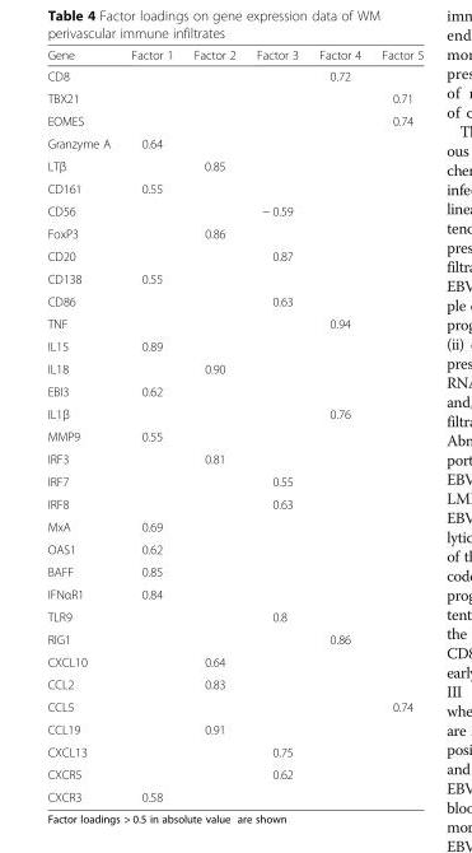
<table><thead><tr><td>Gene</td><td>Factor 1</td><td>Factor 2</td><td>Factor 3</td><td>Factor 4</td><td>Factor 5</td></tr></thead><tbody><tr><td>CD8</td><td></td><td></td><td></td><td>0.72</td><td></td></tr><tr><td>TBX21</td><td></td><td></td><td></td><td></td><td>0.71</td></tr><tr><td>EOMES</td><td></td><td></td><td></td><td></td><td>0.74</td></tr><tr><td>Granzyme A</td><td>0.64</td><td></td><td></td><td></td><td></td></tr><tr><td>LTβ</td><td></td><td>0.85</td><td></td><td></td><td></td></tr><tr><td>CD161</td><td>0.55</td><td></td><td></td><td></td><td></td></tr><tr><td>CD56</td><td></td><td></td><td>− 0.59</td><td></td><td></td></tr><tr><td>FoxP3</td><td></td><td>0.86</td><td></td><td></td><td></td></tr><tr><td>CD20</td><td></td><td></td><td>0.87</td><td></td><td></td></tr><tr><td>CD138</td><td>0.55</td><td></td><td></td><td></td><td></td></tr><tr><td>CD86</td><td></td><td></td><td>0.63</td><td></td><td></td></tr><tr><td>TNF</td><td></td><td></td><td></td><td>0.94</td><td></td></tr><tr><td>IL15</td><td>0.89</td><td></td><td></td><td></td><td></td></tr><tr><td>IL18</td><td></td><td>0.90</td><td></td><td></td><td></td></tr><tr><td>EBI3</td><td>0.62</td><td></td><td></td><td></td><td></td></tr><tr><td>IL1β</td><td></td><td></td><td></td><td>0.76</td><td></td></tr><tr><td>MMP9</td><td>0.55</td><td></td><td></td><td></td><td></td></tr><tr><td>IRF3</td><td></td><td>0.81</td><td></td><td></td><td></td></tr><tr><td>IRF7</td><td></td><td></td><td>0.55</td><td></td><td></td></tr><tr><td>IRF8</td><td></td><td></td><td>0.63</td><td></td><td></td></tr><tr><td>MxA</td><td>0.69</td><td></td><td></td><td></td><td></td></tr><tr><td>OAS1</td><td>0.62</td><td></td><td></td><td></td><td></td></tr><tr><td>BAFF</td><td>0.85</td><td></td><td></td><td></td><td></td></tr><tr><td>IFNαR1</td><td>0.84</td><td></td><td></td><td></td><td></td></tr><tr><td>TLR9</td><td></td><td></td><td>0.8</td><td></td><td></td></tr><tr><td>RIG1</td><td></td><td></td><td></td><td>0.86</td><td></td></tr><tr><td>CXCL10</td><td></td><td>0.64</td><td></td><td></td><td></td></tr><tr><td>CCL2</td><td></td><td>0.83</td><td></td><td></td><td></td></tr><tr><td>CCL5</td><td></td><td></td><td></td><td></td><td>0.74</td></tr><tr><td>CCL19</td><td></td><td>0.91</td><td></td><td></td><td></td></tr><tr><td>CXCL13</td><td></td><td></td><td>0.75</td><td></td><td></td></tr><tr><td>CXCR5</td><td></td><td></td><td>0.62</td><td></td><td></td></tr><tr><td>CXCR3</td><td>0.58</td><td></td><td></td><td></td><td></td></tr></tbody></table>